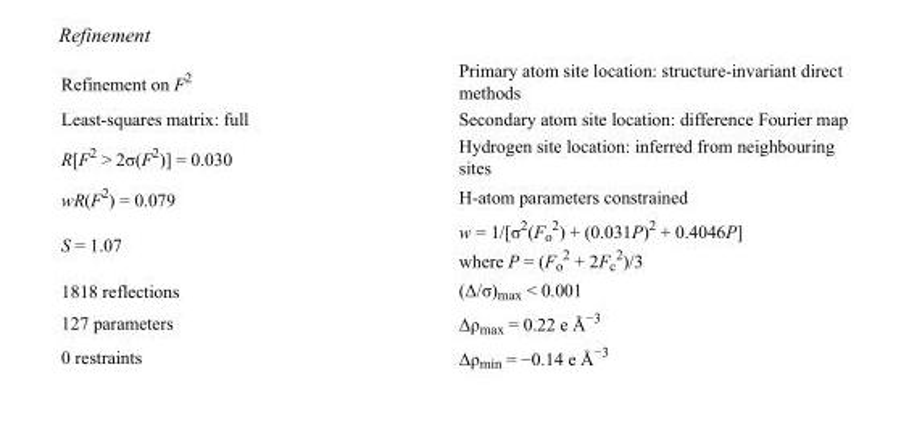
<table><tbody><tr><td>Refinement on F<sup>2</sup></td><td>Primary atom site location: structure-invariant direct methods</td></tr><tr><td>Least-squares matrix: full</td><td>Secondary atom site location: difference Fourier map</td></tr><tr><td>R[F<sup>2</sup> &gt; 2σ(F<sup>2</sup>)] = 0.030</td><td>Hydrogen site location: inferred from neighbouring sites</td></tr><tr><td>wR(F<sup>2</sup>) = 0.079</td><td>H-atom parameters constrained</td></tr><tr><td>S = 1.07</td><td>w = 1/[σ<sup>2</sup>(F<sub>o</sub> <sup>2</sup>) + (0.031P)<sup>2</sup> + 0.4046P] where P = (F<sub>o</sub> <sup>2</sup> + 2F<sub>c</sub> <sup>2</sup>)/3</td></tr><tr><td>1818 reflections</td><td>(Δ/σ)<sub>max</sub> &lt; 0.001</td></tr><tr><td>127 parameters</td><td>Δρ<sub>max</sub> = 0.22 e Å<sup>−3</sup></td></tr><tr><td>0 restraints</td><td>Δρ<sub>min</sub> = −0.14 e Å<sup>−3</sup></td></tr></tbody></table>